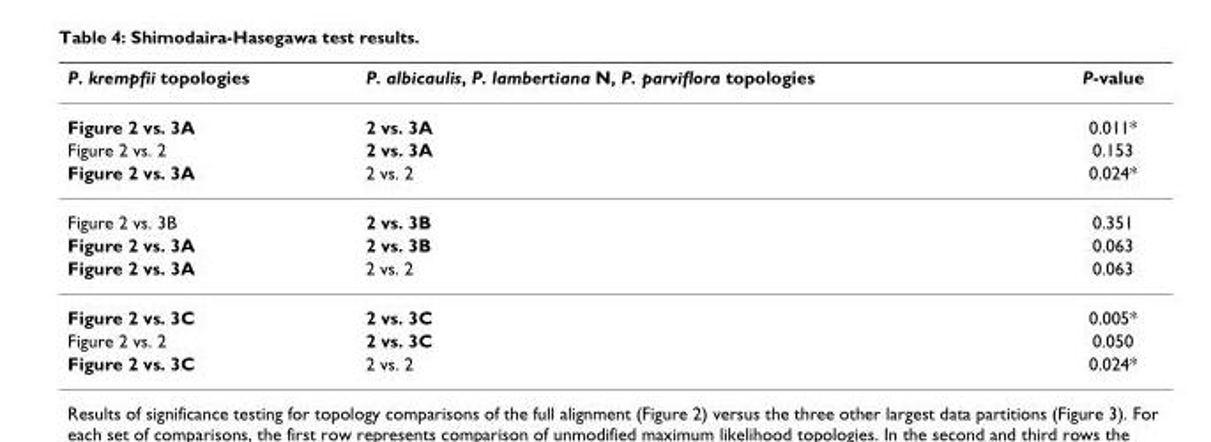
<table><thead><tr><td>P. krempfii topologies</td><td>P. albicaulis, P. lambertiana N, P. parviflora topologies</td><td>P-value</td></tr></thead><tbody><tr><td>Figure 2 vs. 3A</td><td>2 vs. 3A</td><td>0.011*</td></tr><tr><td>Figure 2 vs. 2</td><td>2 vs. 3A</td><td>0.153</td></tr><tr><td>Figure 2 vs. 3A</td><td>2 vs. 2</td><td>0.024*</td></tr><tr><td>Figure 2 vs. 3B</td><td>2 vs. 3B</td><td>0.351</td></tr><tr><td>Figure 2 vs. 3A</td><td>2 vs. 3B</td><td>0.063</td></tr><tr><td>Figure 2 vs. 3A</td><td>2 vs. 2</td><td>0.063</td></tr><tr><td>Figure 2 vs. 3C</td><td>2 vs. 3C</td><td>0.005*</td></tr><tr><td>Figure 2 vs. 2</td><td>2 vs. 3C</td><td>0.050</td></tr><tr><td>Figure 2 vs. 3C</td><td>2 vs. 2</td><td>0.024*</td></tr></tbody></table>